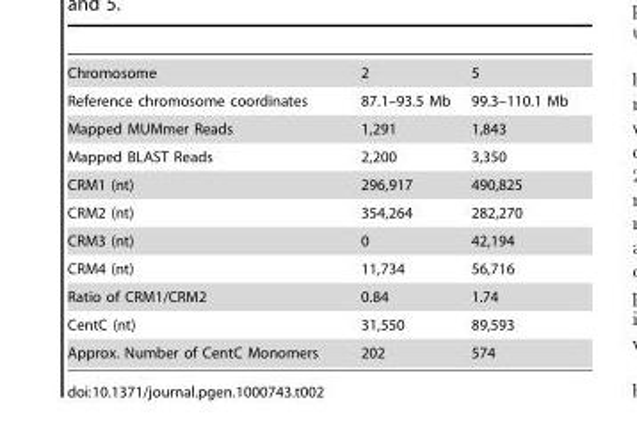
<table><tbody><tr><td>Chromosome</td><td>2</td><td>5</td></tr><tr><td>Reference chromosome coordinates</td><td>87.1–93.5 Mb</td><td>99.3–110.1 Mb</td></tr><tr><td>Mapped MUMmer Reads</td><td>1,291</td><td>1,843</td></tr><tr><td>Mapped BLAST Reads</td><td>2,200</td><td>3,350</td></tr><tr><td>CRM1 (nt)</td><td>296,917</td><td>490,825</td></tr><tr><td>CRM2 (nt)</td><td>354,264</td><td>282,270</td></tr><tr><td>CRM3 (nt)</td><td>0</td><td>42,194</td></tr><tr><td>CRM4 (nt)</td><td>11,734</td><td>56,716</td></tr><tr><td>Ratio of CRM1/CRM2</td><td>0.84</td><td>1.74</td></tr><tr><td>CentC (nt)</td><td>31,550</td><td>89,593</td></tr><tr><td>Approx. Number of CentC Monomers</td><td>202</td><td>574</td></tr></tbody></table>